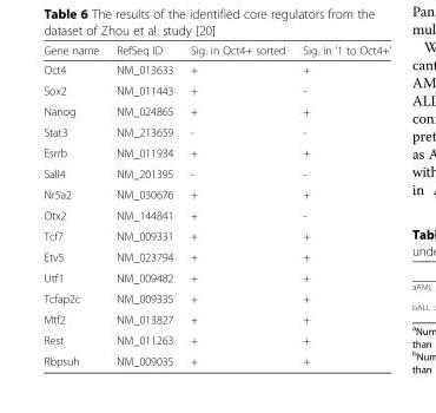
<table><thead><tr><td>Gene name</td><td>RefSeq ID</td><td>Sig. in Oct4+ sorted</td><td>Sig. in ‘1 to Oct4+’</td></tr></thead><tbody><tr><td>Oct4</td><td>NM_013633</td><td>+</td><td>+</td></tr><tr><td>Sox2</td><td>NM_011443</td><td>+</td><td>-</td></tr><tr><td>Nanog</td><td>NM_024865</td><td>+</td><td>+</td></tr><tr><td>Stat3</td><td>NM_213659</td><td>-</td><td>-</td></tr><tr><td>Esrrb</td><td>NM_011934</td><td>+</td><td>+</td></tr><tr><td>Sall4</td><td>NM_201395</td><td>-</td><td>-</td></tr><tr><td>Nr5a2</td><td>NM_030676</td><td>+</td><td>+</td></tr><tr><td>Otx2</td><td>NM_144841</td><td>+</td><td>-</td></tr><tr><td>Tcf7</td><td>NM_009331</td><td>+</td><td>+</td></tr><tr><td>Etv5</td><td>NM_023794</td><td>+</td><td>+</td></tr><tr><td>Utf1</td><td>NM_009482</td><td>+</td><td>+</td></tr><tr><td>Tcfap2c</td><td>NM_009335</td><td>+</td><td>+</td></tr><tr><td>Mtf2</td><td>NM_013827</td><td>+</td><td>+</td></tr><tr><td>Rest</td><td>NM_011263</td><td>+</td><td>+</td></tr><tr><td>Rbpsuh</td><td>NM_009035</td><td>+</td><td>+</td></tr></tbody></table>